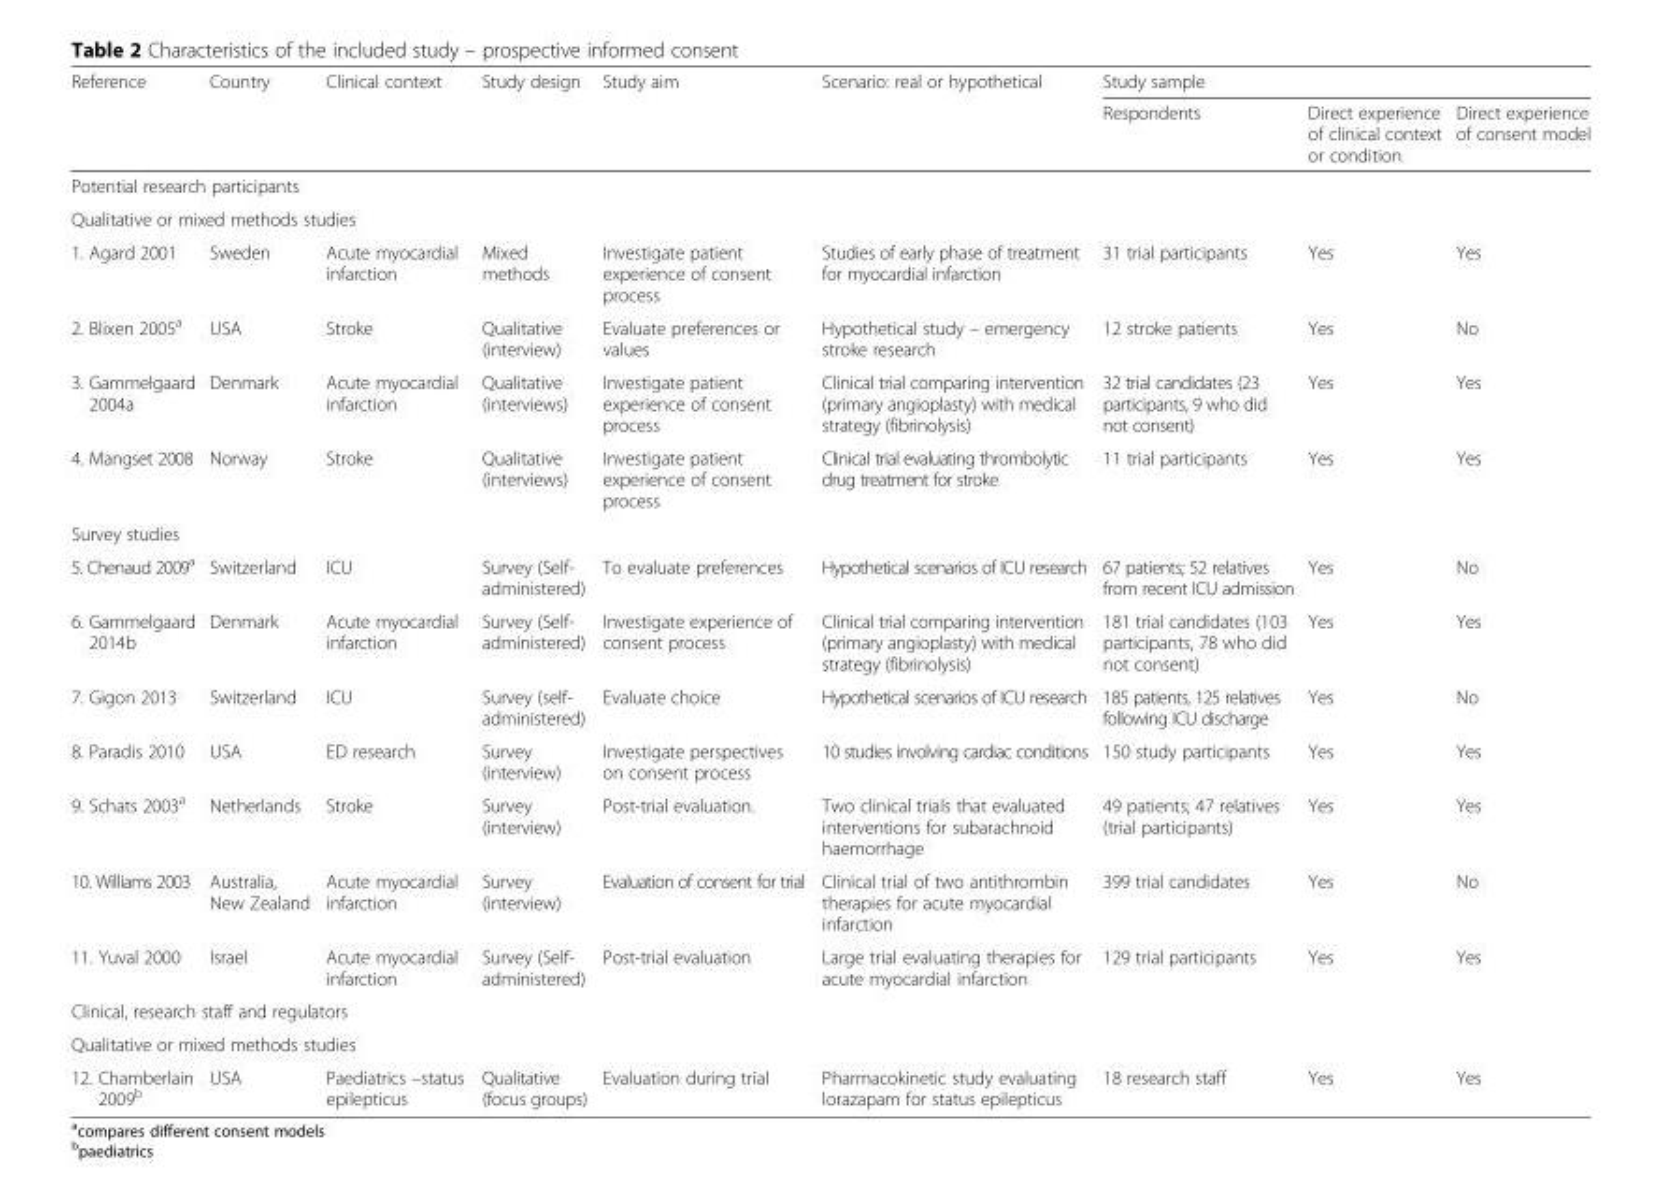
<table><thead><tr><td rowspan="2">Reference</td><td rowspan="2">Country</td><td rowspan="2">Clinical context</td><td rowspan="2">Study design</td><td rowspan="2">Study aim</td><td rowspan="2">Scenario: real or hypothetical</td><td colspan="3">Study sample</td></tr><tr><td>Respondents</td><td>Direct experience of clinical context or condition</td><td>Direct experience of consent model</td></tr></thead><tbody><tr><td colspan="9">Potential research participants</td></tr><tr><td colspan="9">Qualitative or mixed methods studies</td></tr><tr><td>1. Agard 2001</td><td>Sweden</td><td>Acute myocardial infarction</td><td>Mixed methods</td><td>Investigate patient experience of consent process</td><td>Studies of early phase of treatment for myocardial infarction</td><td>31 trial participants</td><td>Yes</td><td>Yes</td></tr><tr><td>2. Blixen 2005<sup>a</sup></td><td>USA</td><td>Stroke</td><td>Qualitative (interview)</td><td>Evaluate preferences or values</td><td>Hypothetical study – emergency stroke research</td><td>12 stroke patients</td><td>Yes</td><td>No</td></tr><tr><td>3. Gammelgaard 2004a</td><td>Denmark</td><td>Acute myocardial infarction</td><td>Qualitative (interviews)</td><td>Investigate patient experience of consent process</td><td>Clinical trial comparing intervention (primary angioplasty) with medical strategy (fibrinolysis)</td><td>32 trial candidates (23 participants, 9 who did not consent)</td><td>Yes</td><td>Yes</td></tr><tr><td>4. Mangset 2008</td><td>Norway</td><td>Stroke</td><td>Qualitative (interviews)</td><td>Investigate patient experience of consent process</td><td>Clinical trial evaluating thrombolytic drug treatment for stroke</td><td>11 trial participants</td><td>Yes</td><td>Yes</td></tr><tr><td colspan="9">Survey studies</td></tr><tr><td>5. Chenaud 2009<sup>a</sup></td><td>Switzerland</td><td>ICU</td><td>Survey (Self- administered)</td><td>To evaluate preferences</td><td>Hypothetical scenarios of ICU research</td><td>67 patients; 52 relatives from recent ICU admission</td><td>Yes</td><td>No</td></tr><tr><td>6. Gammelgaard 2014b</td><td>Denmark</td><td>Acute myocardial infarction</td><td>Survey (Self- administered)</td><td>Investigate experience of consent process</td><td>Clinical trial comparing intervention (primary angioplasty) with medical strategy (fibrinolysis)</td><td>181 trial candidates (103 participants, 78 who did not consent)</td><td>Yes</td><td>Yes</td></tr><tr><td>7. Gigon 2013</td><td>Switzerland</td><td>ICU</td><td>Survey (self- administered)</td><td>Evaluate choice</td><td>Hypothetical scenarios of ICU research</td><td>185 patients, 125 relatives following ICU discharge</td><td>Yes</td><td>No</td></tr><tr><td>8. Paradis 2010</td><td>USA</td><td>ED research</td><td>Survey (interview)</td><td>Investigate perspectives on consent process</td><td>10 studies involving cardiac conditions</td><td>150 study participants</td><td>Yes</td><td>Yes</td></tr><tr><td>9. Schats 2003<sup>a</sup></td><td>Netherlands</td><td>Stroke</td><td>Survey (interview)</td><td>Post-trial evaluation.</td><td>Two clinical trials that evaluated interventions for subarachnoid haemorrhage</td><td>49 patients; 47 relatives (trial participants)</td><td>Yes</td><td>Yes</td></tr><tr><td>10. Williams 2003</td><td>Australia, New Zealand</td><td>Acute myocardial infarction</td><td>Survey (interview)</td><td>Evaluation of consent for trial</td><td>Clinical trial of two antithrombin therapies for acute myocardial infarction</td><td>399 trial candidates</td><td>Yes</td><td>No</td></tr><tr><td>11. Yuval 2000</td><td>Israel</td><td>Acute myocardial infarction</td><td>Survey (Self- administered)</td><td>Post-trial evaluation</td><td>Large trial evaluating therapies for acute myocardial infarction</td><td>129 trial participants</td><td>Yes</td><td>Yes</td></tr><tr><td colspan="9">Clinical, research staff and regulators</td></tr><tr><td colspan="9">Qualitative or mixed methods studies</td></tr><tr><td>12. Chamberlain 2009<sup>b</sup></td><td>USA</td><td>Paediatrics –status epilepticus</td><td>Qualitative (focus groups)</td><td>Evaluation during trial</td><td>Pharmacokinetic study evaluating lorazapam for status epilepticus</td><td>18 research staff</td><td>Yes</td><td>Yes</td></tr></tbody></table>